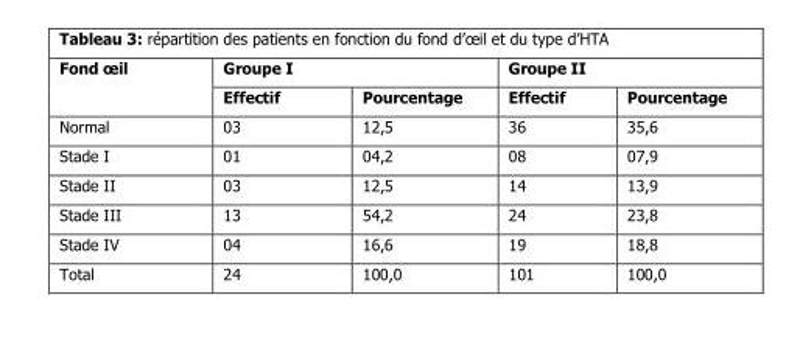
<table><thead><tr><td rowspan="2">Fond œil</td><td colspan="2">Groupe I</td><td colspan="2">Groupe II</td></tr><tr><td>Effectif</td><td>Pourcentage</td><td>Effectif</td><td>Pourcentage</td></tr></thead><tbody><tr><td>Normal</td><td>03</td><td>12,5</td><td>36</td><td>35,6</td></tr><tr><td>Stade I</td><td>01</td><td>04,2</td><td>08</td><td>07,9</td></tr><tr><td>Stade II</td><td>03</td><td>12,5</td><td>14</td><td>13,9</td></tr><tr><td>Stade III</td><td>13</td><td>54,2</td><td>24</td><td>23,8</td></tr><tr><td>Stade IV</td><td>04</td><td>16,6</td><td>19</td><td>18,8</td></tr><tr><td>Total</td><td>24</td><td>100,0</td><td>101</td><td>100,0</td></tr></tbody></table>